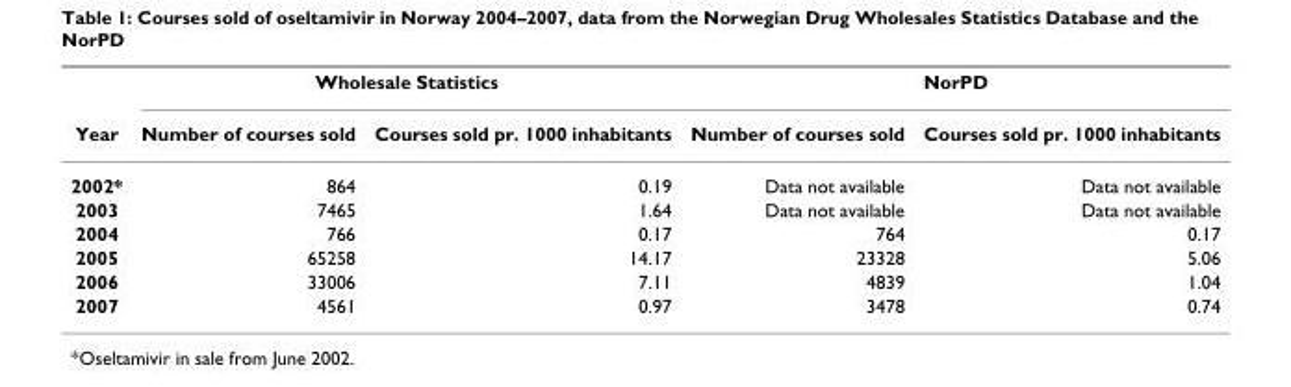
<table><thead><tr><td rowspan="2">Year</td><td colspan="2">Wholesale Statistics</td><td colspan="2">NorPD</td></tr><tr><td>Number of courses sold</td><td>Courses sold pr. 1000 inhabitants</td><td>Number of courses sold</td><td>Courses sold pr. 1000 inhabitants</td></tr></thead><tbody><tr><td>2002*</td><td>864</td><td>0.19</td><td>Data not available</td><td>Data not available</td></tr><tr><td>2003</td><td>7465</td><td>1.64</td><td>Data not available</td><td>Data not available</td></tr><tr><td>2004</td><td>766</td><td>0.17</td><td>764</td><td>0.17</td></tr><tr><td>2005</td><td>65258</td><td>14.17</td><td>23328</td><td>5.06</td></tr><tr><td>2006</td><td>33006</td><td>7.11</td><td>4839</td><td>1.04</td></tr><tr><td>2007</td><td>4561</td><td>0.97</td><td>3478</td><td>0.74</td></tr></tbody></table>